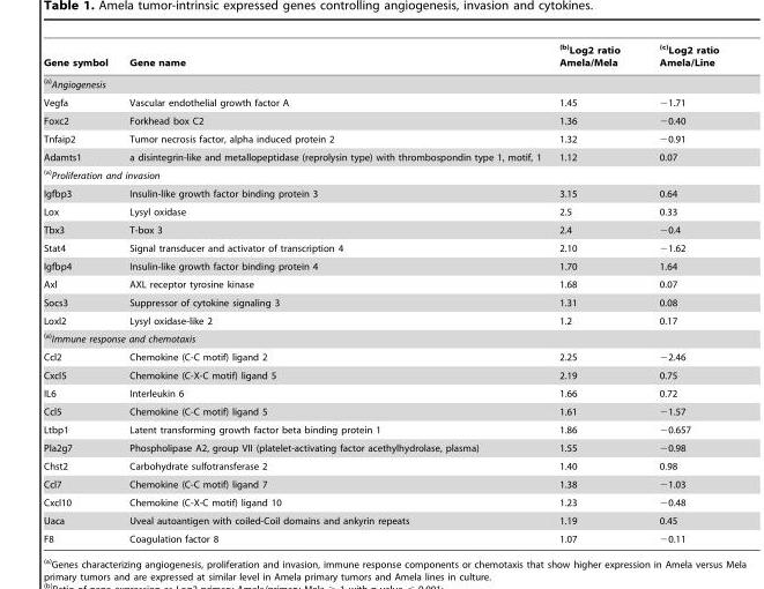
<table><thead><tr><td>Gene symbol</td><td>Gene name</td><td>(b)Log2 ratio Amela/Mela</td><td>(c)Log2 ratio Amela/Line</td></tr></thead><tbody><tr><td colspan="4">(a)Angiogenesis</td></tr><tr><td>Vegfa</td><td>Vascular endothelial growth factor A</td><td>1.45</td><td>−1.71</td></tr><tr><td>Foxc2</td><td>Forkhead box C2</td><td>1.36</td><td>−0.40</td></tr><tr><td>Tnfaip2</td><td>Tumor necrosis factor, alpha induced protein 2</td><td>1.32</td><td>−0.91</td></tr><tr><td>Adamts1</td><td>a disintegrin-like and metallopeptidase (reprolysin type) with thrombospondin type 1, motif, 1</td><td>1.12</td><td>0.07</td></tr><tr><td colspan="4">(a)Proliferation and invasion</td></tr><tr><td>Igfbp3</td><td>Insulin-like growth factor binding protein 3</td><td>3.15</td><td>0.64</td></tr><tr><td>Lox</td><td>Lysyl oxidase</td><td>2.5</td><td>0.33</td></tr><tr><td>Tbx3</td><td>T-box 3</td><td>2.4</td><td>−0.4</td></tr><tr><td>Stat4</td><td>Signal transducer and activator of transcription 4</td><td>2.10</td><td>−1.62</td></tr><tr><td>Igfbp4</td><td>Insulin-like growth factor binding protein 4</td><td>1.70</td><td>1.64</td></tr><tr><td>Axl</td><td>AXL receptor tyrosine kinase</td><td>1.68</td><td>0.07</td></tr><tr><td>Socs3</td><td>Suppressor of cytokine signaling 3</td><td>1.31</td><td>0.08</td></tr><tr><td>Loxl2</td><td>Lysyl oxidase-like 2</td><td>1.2</td><td>0.17</td></tr><tr><td colspan="4">(a)Immune response and chemotaxis</td></tr><tr><td>Ccl2</td><td>Chemokine (C-C motif) ligand 2</td><td>2.25</td><td>−2.46</td></tr><tr><td>Cxcl5</td><td>Chemokine (C-X-C motif) ligand 5</td><td>2.19</td><td>0.75</td></tr><tr><td>IL6</td><td>Interleukin 6</td><td>1.66</td><td>0.72</td></tr><tr><td>Ccl5</td><td>Chemokine (C-C motif) ligand 5</td><td>1.61</td><td>−1.57</td></tr><tr><td>Ltbp1</td><td>Latent transforming growth factor beta binding protein 1</td><td>1.86</td><td>−0.657</td></tr><tr><td>Pla2g7</td><td>Phospholipase A2, group VII (platelet-activating factor acethylhydrolase, plasma)</td><td>1.55</td><td>−0.98</td></tr><tr><td>Chst2</td><td>Carbohydrate sulfotransferase 2</td><td>1.40</td><td>0.98</td></tr><tr><td>Ccl7</td><td>Chemokine (C-C motif) ligand 7</td><td>1.38</td><td>−1.03</td></tr><tr><td>Cxcl10</td><td>Chemokine (C-X-C motif) ligand 10</td><td>1.23</td><td>−0.48</td></tr><tr><td>Uaca</td><td>Uveal autoantigen with coiled-Coil domains and ankyrin repeats</td><td>1.19</td><td>0.45</td></tr><tr><td>F8</td><td>Coagulation factor 8</td><td>1.07</td><td>−0.11</td></tr></tbody></table>